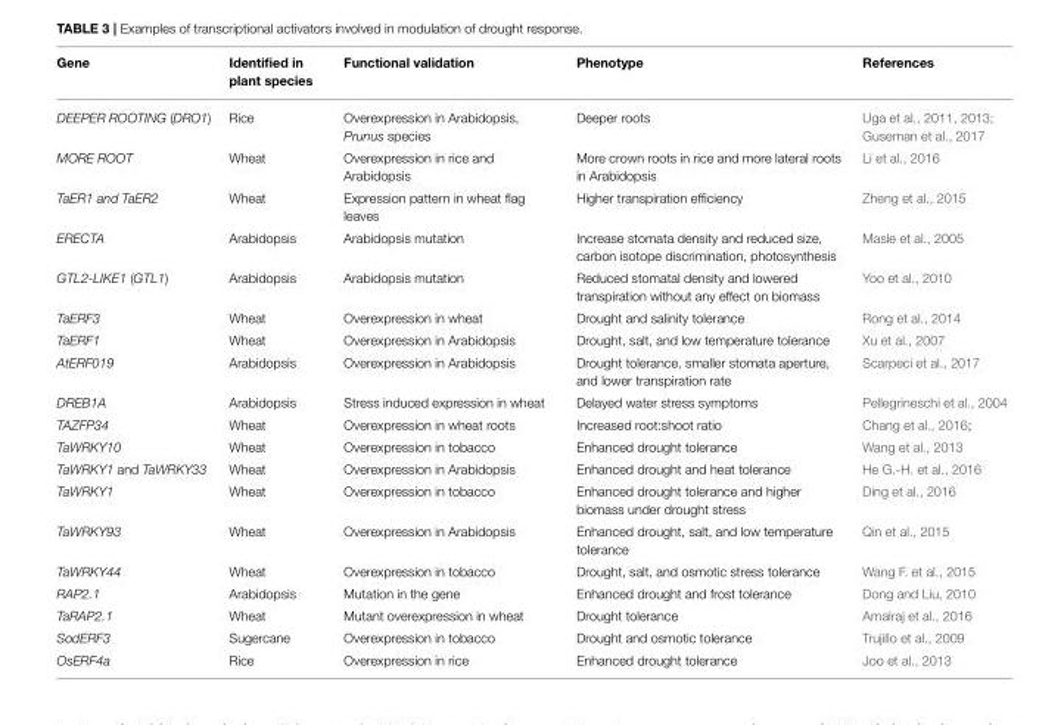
<table><thead><tr><td>Gene</td><td>Identified in plant species</td><td>Functional validation</td><td>Phenotype</td><td>References</td></tr></thead><tbody><tr><td>DEEPER ROOTING (DRO1)</td><td>Rice</td><td>Overexpression in Arabidopsis, Prunus species</td><td>Deeper roots</td><td>Uga et al., 2011, 2013; Guseman et al., 2017</td></tr><tr><td>MORE ROOT</td><td>Wheat</td><td>Overexpression in rice and Arabidopsis</td><td>More crown roots in rice and more lateral roots in Arabidopsis</td><td>Li et al., 2016</td></tr><tr><td>TaER1 and TaER2</td><td>Wheat</td><td>Expression pattern in wheat flag leaves</td><td>Higher transpiration efficiency</td><td>Zheng et al., 2015</td></tr><tr><td>ERECTA</td><td>Arabidopsis</td><td>Arabidopsis mutation</td><td>Increase stomata density and reduced size, carbon isotope discrimination, photosynthesis</td><td>Masle et al., 2005</td></tr><tr><td>GTL2-LIKE1 (GTL1)</td><td>Arabidopsis</td><td>Arabidopsis mutation</td><td>Reduced stomatal density and lowered transpiration without any effect on biomass</td><td>Yoo et al., 2010</td></tr><tr><td>TaERF3</td><td>Wheat</td><td>Overexpression in wheat</td><td>Drought and salinity tolerance</td><td>Rong et al., 2014</td></tr><tr><td>TaERF1</td><td>Wheat</td><td>Overexpression in Arabidopsis</td><td>Drought, salt, and low temperature tolerance</td><td>Xu et al., 2007</td></tr><tr><td>AtERF019</td><td>Arabidopsis</td><td>Overexpression in Arabidopsis</td><td>Drought tolerance, smaller stomata aperture, and lower transpiration rate</td><td>Scarpeci et al., 2017</td></tr><tr><td>DREB1A</td><td>Arabidopsis</td><td>Stress induced expression in wheat</td><td>Delayed water stress symptoms</td><td>Pellegrineschi et al., 2004</td></tr><tr><td>TAZFP34</td><td>Wheat</td><td>Overexpression in wheat roots</td><td>Increased root:shoot ratio</td><td>Chang et al., 2016;</td></tr><tr><td>TaWRKY10</td><td>Wheat</td><td>Overexpression in tobacco</td><td>Enhanced drought tolerance</td><td>Wang et al., 2013</td></tr><tr><td>TaWRKY1 and TaWRKY33</td><td>Wheat</td><td>Overexpression in Arabidopsis</td><td>Enhanced drought and heat tolerance</td><td>He G.-H. et al., 2016</td></tr><tr><td>TaWRKY1</td><td>Wheat</td><td>Overexpression in tobacco</td><td>Enhanced drought tolerance and higher biomass under drought stress</td><td>Ding et al., 2016</td></tr><tr><td>TaWRKY93</td><td>Wheat</td><td>Overexpression in Arabidopsis</td><td>Enhanced drought, salt, and low temperature tolerance</td><td>Qin et al., 2015</td></tr><tr><td>TaWRKY44</td><td>Wheat</td><td>Overexpression in tobacco</td><td>Drought, salt, and osmotic stress tolerance</td><td>Wang F. et al., 2015</td></tr><tr><td>RAP2.1</td><td>Arabidopsis</td><td>Mutation in the gene</td><td>Enhanced drought and frost tolerance</td><td>Dong and Liu, 2010</td></tr><tr><td>TaRAP2.1</td><td>Wheat</td><td>Mutant overexpression in wheat</td><td>Drought tolerance</td><td>Amalraj et al., 2016</td></tr><tr><td>SodERF3</td><td>Sugercane</td><td>Overexpression in tobacco</td><td>Drought and osmotic tolerance</td><td>Trujillo et al., 2009</td></tr><tr><td>OsERF4a</td><td>Rice</td><td>Overexpression in rice</td><td>Enhanced drought tolerance</td><td>Joo et al., 2013</td></tr></tbody></table>